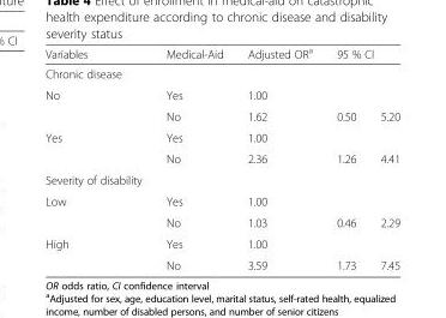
<table><thead><tr><td rowspan="2">Variables Chronic disease</td><td rowspan="2">Medical-Aid</td><td rowspan="2">Adjusted OR<sup>a</sup></td><td colspan="2">95 % CI</td></tr><tr><td></td><td></td></tr></thead><tbody><tr><td rowspan="2">No</td><td>Yes</td><td>1.00</td><td></td><td></td></tr><tr><td>No</td><td>1.62</td><td>0.50</td><td>5.20</td></tr><tr><td rowspan="2">Yes</td><td>Yes</td><td>1.00</td><td></td><td></td></tr><tr><td>No</td><td>2.36</td><td>1.26</td><td>4.41</td></tr><tr><td colspan="5">Severity of disability</td></tr><tr><td rowspan="2">Low</td><td>Yes</td><td>1.00</td><td></td><td></td></tr><tr><td>No</td><td>1.03</td><td>0.46</td><td>2.29</td></tr><tr><td rowspan="2">High</td><td>Yes</td><td>1.00</td><td></td><td></td></tr><tr><td>No</td><td>3.59</td><td>1.73</td><td>7.45</td></tr></tbody></table>